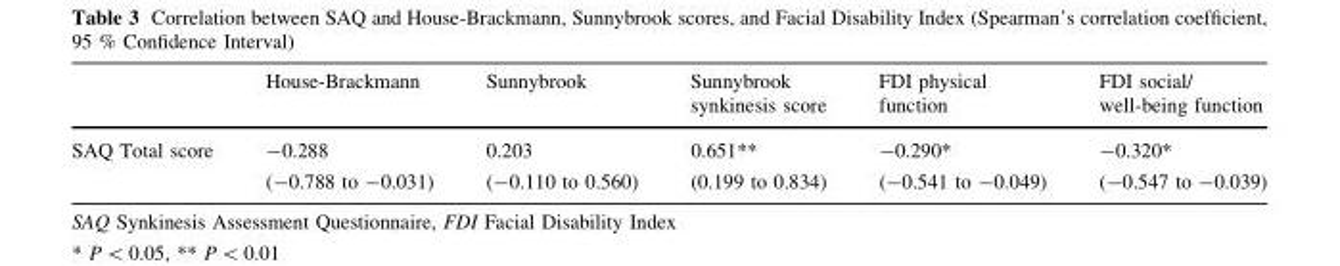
<table><thead><tr><td></td><td>House-Brackmann</td><td>Sunnybrook</td><td>Sunnybrook synkinesis score</td><td>FDI physical function</td><td>FDI social/ well-being function</td></tr></thead><tbody><tr><td rowspan="2">SAQ Total score</td><td>-0.288</td><td>0.203</td><td>0.651**</td><td>-0.290*</td><td>-0.320*</td></tr><tr><td>(-0.788 to -0.031)</td><td>(-0.110 to 0.560)</td><td>(0.199 to 0.834)</td><td>(-0.541 to -0.049)</td><td>(-0.547 to -0.039)</td></tr></tbody></table>